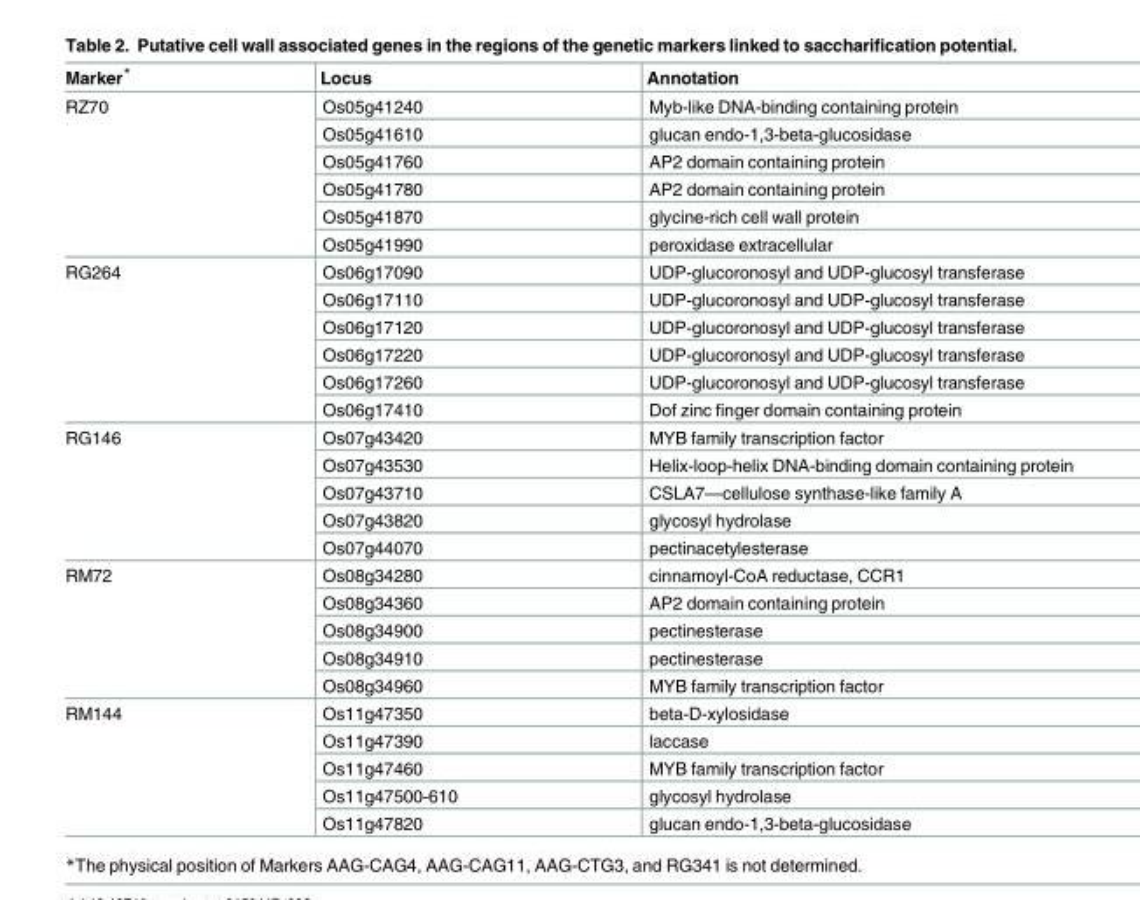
<table><thead><tr><td>Marker*</td><td>Locus</td><td>Annotation</td></tr></thead><tbody><tr><td rowspan="6">RZ70</td><td>Os05g41240</td><td>Myb-like DNA-binding containing protein</td></tr><tr><td>Os05g41610</td><td>glucan endo-1,3-beta-glucosidase</td></tr><tr><td>Os05g41760</td><td>AP2 domain containing protein</td></tr><tr><td>Os05g41780</td><td>AP2 domain containing protein</td></tr><tr><td>Os05g41870</td><td>glycine-rich cell wall protein</td></tr><tr><td>Os05g41990</td><td>peroxidase extracellular</td></tr><tr><td rowspan="6">RG264</td><td>Os06g17090</td><td>UDP-glucoronosyl and UDP-glucosyl transferase</td></tr><tr><td>Os06g17110</td><td>UDP-glucoronosyl and UDP-glucosyl transferase</td></tr><tr><td>Os06g17120</td><td>UDP-glucoronosyl and UDP-glucosyl transferase</td></tr><tr><td>Os06g17220</td><td>UDP-glucoronosyl and UDP-glucosyl transferase</td></tr><tr><td>Os06g17260</td><td>UDP-glucoronosyl and UDP-glucosyl transferase</td></tr><tr><td>Os06g17410</td><td>Dof zinc finger domain containing protein</td></tr><tr><td rowspan="5">RG146</td><td>Os07g43420</td><td>MYB family transcription factor</td></tr><tr><td>Os07g43530</td><td>Helix-loop-helix DNA-binding domain containing protein</td></tr><tr><td>Os07g43710</td><td>CSLA7—cellulose synthase-like family A</td></tr><tr><td>Os07g43820</td><td>glycosyl hydrolase</td></tr><tr><td>Os07g44070</td><td>pectinacetylesterase</td></tr><tr><td rowspan="5">RM72</td><td>Os08g34280</td><td>cinnamoyl-CoA reductase, CCR1</td></tr><tr><td>Os08g34360</td><td>AP2 domain containing protein</td></tr><tr><td>Os08g34900</td><td>pectinesterase</td></tr><tr><td>Os08g34910</td><td>pectinesterase</td></tr><tr><td>Os08g34960</td><td>MYB family transcription factor</td></tr><tr><td rowspan="5">RM144</td><td>Os11g47350</td><td>beta-D-xylosidase</td></tr><tr><td>Os11g47390</td><td>laccase</td></tr><tr><td>Os11g47460</td><td>MYB family transcription factor</td></tr><tr><td>Os11g47500-610</td><td>glycosyl hydrolase</td></tr><tr><td>Os11g47820</td><td>glucan endo-1,3-beta-glucosidase</td></tr></tbody></table>